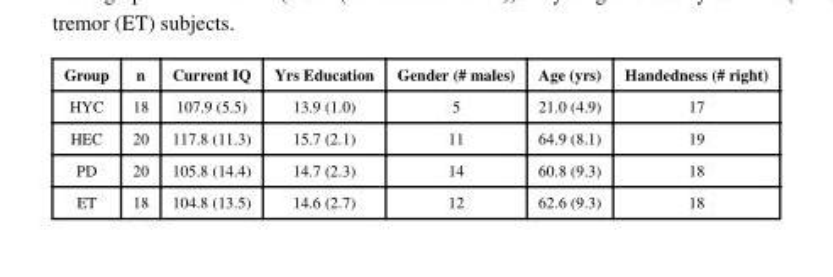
<table><thead><tr><td>Group</td><td>n</td><td>Current IQ</td><td>Yrs Education</td><td>Gender (# males)</td><td>Age (yrs)</td><td>Handedness (# right)</td></tr></thead><tbody><tr><td>HYC</td><td>18</td><td>107.9 (5.5)</td><td>13.9 (1.0)</td><td>5</td><td>21.0 (4.9)</td><td>17</td></tr><tr><td>HEC</td><td>20</td><td>117.8 (11.3)</td><td>15.7 (2.1)</td><td>11</td><td>64.9 (8.1)</td><td>19</td></tr><tr><td>PD</td><td>20</td><td>105.8 (14.4)</td><td>14.7 (2.3)</td><td>14</td><td>60.8 (9.3)</td><td>18</td></tr><tr><td>ET</td><td>18</td><td>104.8 (13.5)</td><td>14.6 (2.7)</td><td>12</td><td>62.6 (9.3)</td><td>18</td></tr></tbody></table>